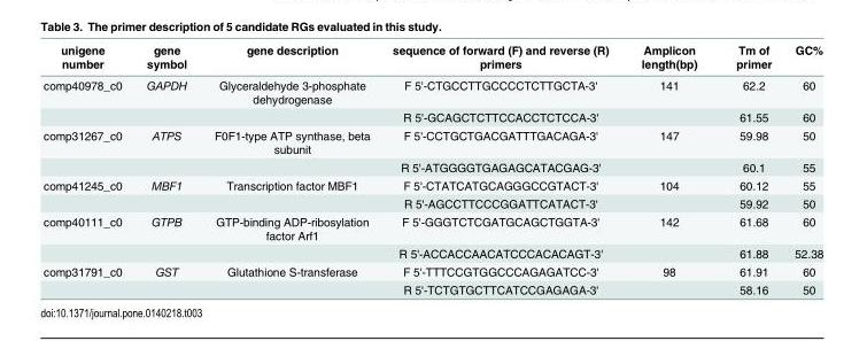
<table><thead><tr><td>unigene number</td><td>gene symbol</td><td>gene description</td><td>sequence of forward (F) and reverse (R) primers</td><td>Amplicon length(bp)</td><td>Tm of primer</td><td>GC%</td></tr></thead><tbody><tr><td rowspan="2">comp40978_c0</td><td>GAPDH</td><td>Glyceraldehyde 3-phosphate dehydrogenase</td><td>F 5&#x27;-CTGCCTTGCCCCTCTTGCTA-3&#x27;</td><td>141</td><td>62.2</td><td>60</td></tr><tr><td></td><td></td><td>R 5&#x27;-GCAGCTCTTCCACCTCTCCA-3&#x27;</td><td></td><td>61.55</td><td>60</td></tr><tr><td rowspan="2">comp31267_c0</td><td>ATPS</td><td>F0F1-type ATP synthase, beta subunit</td><td>F 5&#x27;-CCTGCTGACGATTTGACAGA-3&#x27;</td><td>147</td><td>59.98</td><td>50</td></tr><tr><td></td><td></td><td>R 5&#x27;-ATGGGGTGAGAGCATACGAG-3&#x27;</td><td></td><td>60.1</td><td>55</td></tr><tr><td rowspan="2">comp41245_c0</td><td>MBF1</td><td>Transcription factor MBF1</td><td>F 5&#x27;-CTATCATGCAGGGCCGTACT-3&#x27;</td><td>104</td><td>60.12</td><td>55</td></tr><tr><td></td><td></td><td>R 5&#x27;-AGCCTTCCCGGATTCATACT-3&#x27;</td><td></td><td>59.92</td><td>50</td></tr><tr><td rowspan="2">comp40111_c0</td><td>GTPB</td><td>GTP-binding ADP-ribosylation factor Arf1</td><td>F 5&#x27;-GGGTCTCGATGCAGCTGGTA-3&#x27;</td><td>142</td><td>61.68</td><td>60</td></tr><tr><td></td><td></td><td>R 5&#x27;-ACCACCAACATCCCACACAGT-3&#x27;</td><td></td><td>61.88</td><td>52.38</td></tr><tr><td rowspan="2">comp31791_c0</td><td>GST</td><td>Glutathione S-transferase</td><td>F 5&#x27;-TTTCCGTGGCCCAGAGATCC-3&#x27;</td><td>98</td><td>61.91</td><td>60</td></tr><tr><td></td><td></td><td>R 5&#x27;-TCTGTGCTTCATCCGAGAGA-3&#x27;</td><td></td><td>58.16</td><td>50</td></tr></tbody></table>